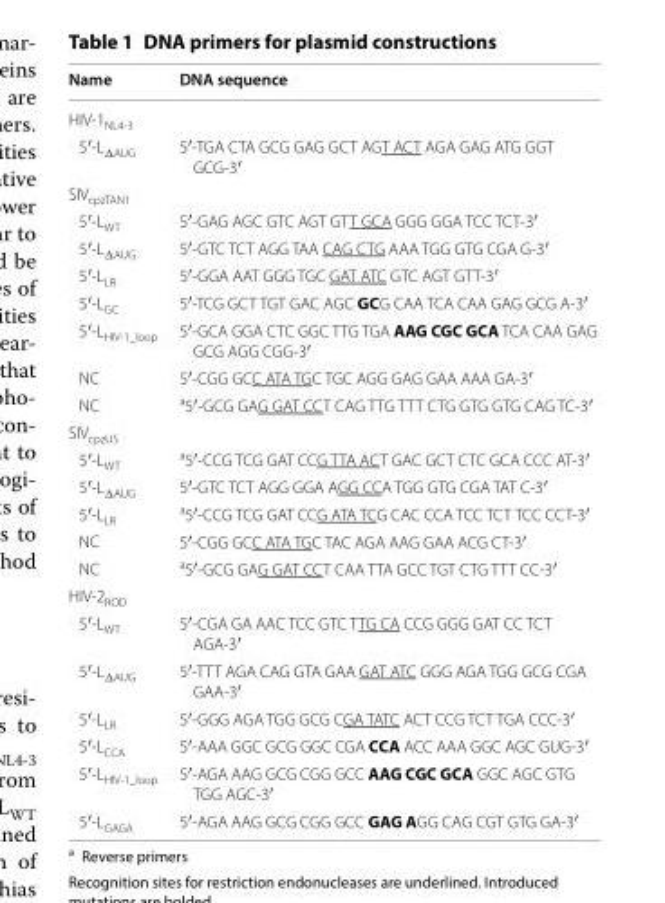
<table><thead><tr><td>Name</td><td>DNA sequence</td></tr></thead><tbody><tr><td colspan="2">HIV-1<sub>NL4-3</sub></td></tr><tr><td>5′-L∆AUG</td><td>5′-TGA CTA GCG GAG GCT AGT ACT AGA GAG ATG GGT GCG-3′</td></tr><tr><td colspan="2">SIV<sub>cpzTAN1</sub></td></tr><tr><td>5′-L<sub>WT</sub></td><td>5′-GAG AGC GTC AGT GTT GCA GGG GGA TCC TCT-3′</td></tr><tr><td>5′-L∆AUG</td><td>5′-GTC TCT AGG TAA CAG CTG AAA TGG GTG CGA G-3′</td></tr><tr><td>5′-L<sub>LR</sub></td><td>5′-GGA AAT GGG TGC GAT ATC GTC AGT GTT-3′</td></tr><tr><td>5′-L<sub>GC</sub></td><td>5′-TCG GCT TGT GAC AGC GCG CAA TCA CAA GAG GCG A-3′</td></tr><tr><td>5′-L<sub>HIV-1_loop</sub></td><td>5′-GCA GGA CTC GGC TTG TGA AAG CGC GCA TCA CAA GAG GCG AGG CGG-3′</td></tr><tr><td>NC</td><td>5′-CGG GCC ATA TGC TGC AGG GAG GAA AAA GA-3′</td></tr><tr><td>NC</td><td><sup>a</sup>5′-GCG GAG GAT CCT CAG TTG TTT CTG GTG GTG CAG TC-3′</td></tr><tr><td colspan="2">SIV<sub>cpzUS</sub></td></tr><tr><td>5′-L<sub>WT</sub></td><td><sup>a</sup>5′-CCG TCG GAT CCG TTA ACT GAC GCT CTC GCA CCC AT-3′</td></tr><tr><td>5′-L∆AUG</td><td>5′-GTC TCT AGG GGA AGG CCA TGG GTG CGA TAT C-3′</td></tr><tr><td>5′-L<sub>LR</sub></td><td><sup>a</sup>5′-CCG TCG GAT CCG ATA TCG CAC CCA TCC TCT TCC CCT-3′</td></tr><tr><td>NC</td><td>5′-CGG GCC ATA TGC TAC AGA AAG GAA ACG CT-3′</td></tr><tr><td>NC</td><td><sup>a</sup>5′-GCG GAG GAT CCT CAA TTA GCC TGT CTG TTT CC-3′</td></tr><tr><td colspan="2">HIV-2<sub>ROD</sub></td></tr><tr><td>5′-L<sub>WT</sub></td><td>5′-CGA GA AAC TCC GTC TTG CA CCG GGG GAT CC TCT AGA-3′</td></tr><tr><td>5′-L∆AUG</td><td>5′-TTT AGA CAG GTA GAA GAT ATC GGG AGA TGG GCG CGA GAA-3′</td></tr><tr><td>5′-L<sub>LR</sub></td><td>5′-GGG AGA TGG GCG CGA TATC ACT CCG TCT TGA CCC-3′</td></tr><tr><td>5′-L<sub>CCA</sub></td><td>5′-AAA GGC GCG GGC CGA CCA ACC AAA GGC AGC GUG-3′</td></tr><tr><td>5′-L<sub>HIV-1_loop</sub></td><td>5′-AGA AAG GCG CGG GCC AAG CGC GCA GGC AGC GTG TGG AGC-3′</td></tr><tr><td>5′-L<sub>GAGA</sub></td><td>5′-AGA AAG GCG CGG GCC GAG AGG CAG CGT GTG GA-3′</td></tr></tbody></table>